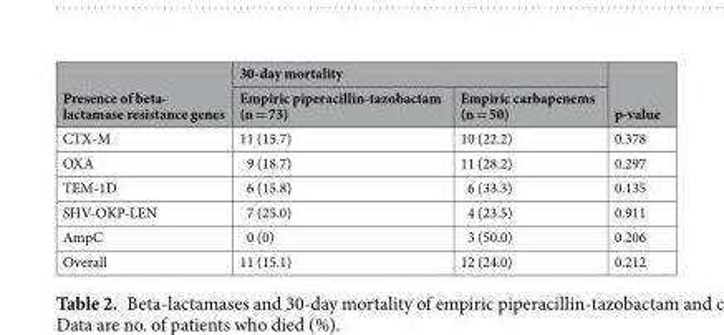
<table><thead><tr><td rowspan="2">Presence of beta- lactamase resistance genes</td><td colspan="2">30-day mortality</td><td rowspan="2">p-value</td></tr><tr><td>Empiric piperacillin-tazobactam (n = 73)</td><td>Empiric carbapenems (n = 50)</td></tr></thead><tbody><tr><td>CTX-M</td><td>11 (15.7)</td><td>10 (22.2)</td><td>0.378</td></tr><tr><td>OXA</td><td>9 (18.7)</td><td>11 (28.2)</td><td>0.297</td></tr><tr><td>TEM-1D</td><td>6 (15.8)</td><td>6 (33.3)</td><td>0.135</td></tr><tr><td>SHV-OKP-LEN</td><td>7 (25.0)</td><td>4 (23.5)</td><td>0.911</td></tr><tr><td>AmpC</td><td>0 (0)</td><td>3 (50.0)</td><td>0.206</td></tr><tr><td>Overall</td><td>11 (15.1)</td><td>12 (24.0)</td><td>0.212</td></tr></tbody></table>